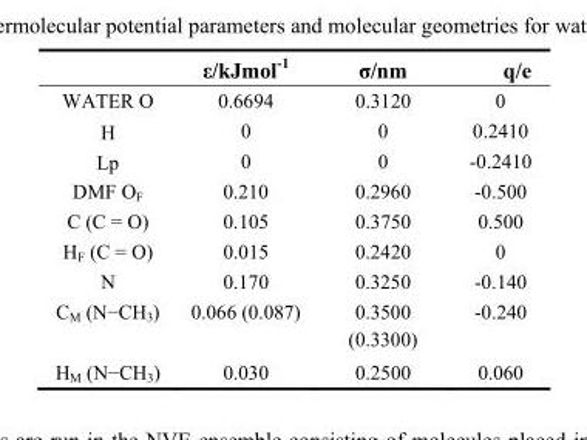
<table><thead><tr><td></td><td>ε/kJmol-1</td><td>σ/nm</td><td>q/e</td></tr></thead><tbody><tr><td>WATER O</td><td>0.6694</td><td>0.3120</td><td>0</td></tr><tr><td>H</td><td>0</td><td>0</td><td>0.2410</td></tr><tr><td>Lp</td><td>0</td><td>0</td><td>-0.2410</td></tr><tr><td>DMF O<sub>F</sub></td><td>0.210</td><td>0.2960</td><td>-0.500</td></tr><tr><td>C (C = O)</td><td>0.105</td><td>0.3750</td><td>0.500</td></tr><tr><td>H<sub>F</sub> (C = O)</td><td>0.015</td><td>0.2420</td><td>0</td></tr><tr><td>N</td><td>0.170</td><td>0.3250</td><td>-0.140</td></tr><tr><td>C<sub>M</sub> (N−CH<sub>3</sub>)</td><td>0.066 (0.087)</td><td>0.3500 (0.3300)</td><td>-0.240</td></tr><tr><td>H<sub>M</sub> (N−CH<sub>3</sub>)</td><td>0.030</td><td>0.2500</td><td>0.060</td></tr></tbody></table>